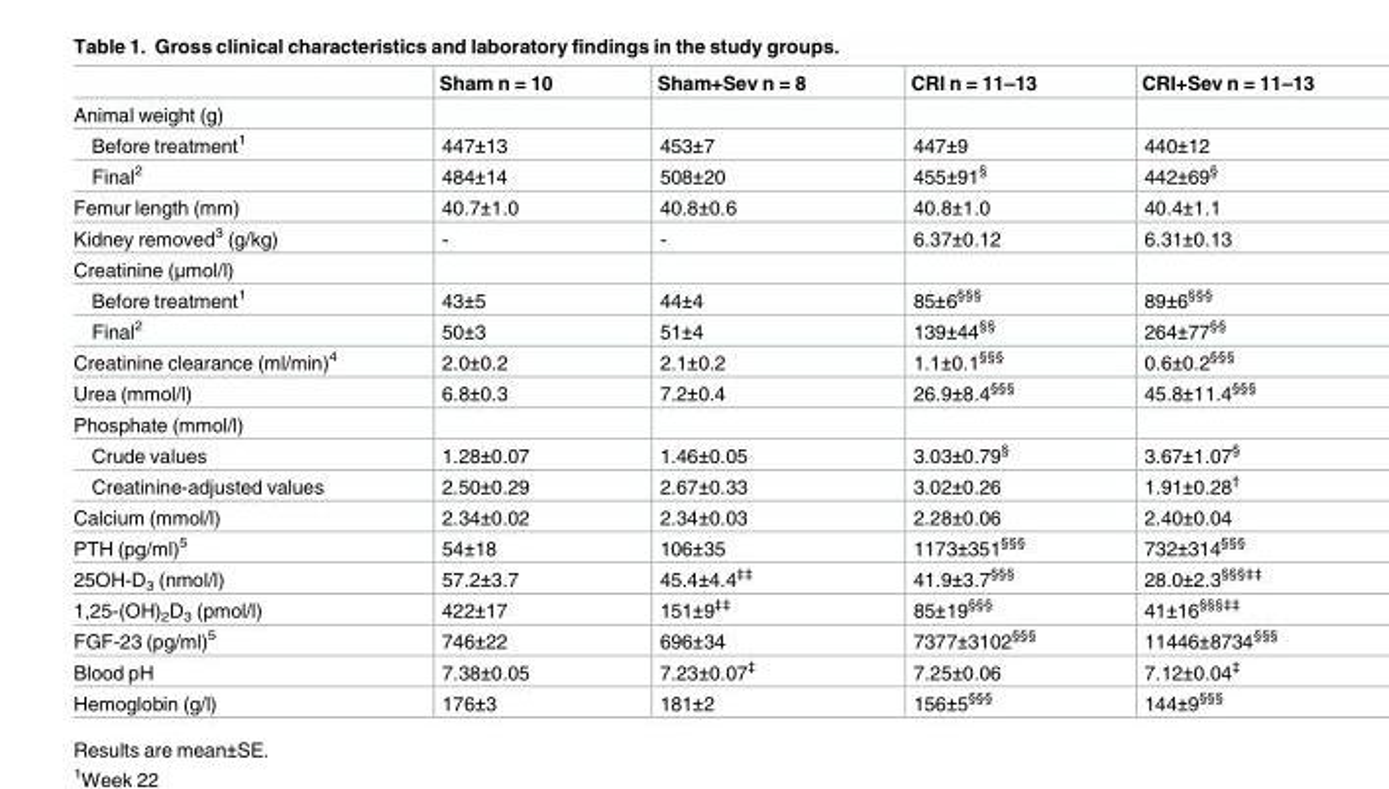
<table><thead><tr><td></td><td>Sham n = 10</td><td>Sham+Sev n = 8</td><td>CRI n = 11–13</td><td>CRI+Sev n = 11–13</td></tr></thead><tbody><tr><td colspan="5">Animal weight (g)</td></tr><tr><td>Before treatment<sup>1</sup></td><td>447±13</td><td>453±7</td><td>447±9</td><td>440±12</td></tr><tr><td>Final<sup>2</sup></td><td>484±14</td><td>508±20</td><td>455±91<sup>§</sup></td><td>442±69<sup>§</sup></td></tr><tr><td>Femur length (mm)</td><td>40.7±1.0</td><td>40.8±0.6</td><td>40.8±1.0</td><td>40.4±1.1</td></tr><tr><td>Kidney removed<sup>3</sup> (g/kg)</td><td>-</td><td>-</td><td>6.37±0.12</td><td>6.31±0.13</td></tr><tr><td colspan="5">Creatinine (μmol/l)</td></tr><tr><td>Before treatment<sup>1</sup></td><td>43±5</td><td>44±4</td><td>85±6<sup>§§§</sup></td><td>89±6<sup>§§§</sup></td></tr><tr><td>Final<sup>2</sup></td><td>50±3</td><td>51±4</td><td>139±44<sup>§§</sup></td><td>264±77<sup>§§</sup></td></tr><tr><td>Creatinine clearance (ml/min)<sup>4</sup></td><td>2.0±0.2</td><td>2.1±0.2</td><td>1.1±0.1<sup>§§§</sup></td><td>0.6±0.2<sup>§§§</sup></td></tr><tr><td>Urea (mmol/l)</td><td>6.8±0.3</td><td>7.2±0.4</td><td>26.9±8.4<sup>§§§</sup></td><td>45.8±11.4<sup>§§§</sup></td></tr><tr><td colspan="5">Phosphate (mmol/l)</td></tr><tr><td>Crude values</td><td>1.28±0.07</td><td>1.46±0.05</td><td>3.03±0.79<sup>§</sup></td><td>3.67±1.07<sup>§</sup></td></tr><tr><td>Creatinine-adjusted values</td><td>2.50±0.29</td><td>2.67±0.33</td><td>3.02±0.26</td><td>1.91±0.28<sup>†</sup></td></tr><tr><td>Calcium (mmol/l)</td><td>2.34±0.02</td><td>2.34±0.03</td><td>2.28±0.06</td><td>2.40±0.04</td></tr><tr><td>PTH (pg/ml)<sup>5</sup></td><td>54±18</td><td>106±35</td><td>1173±351<sup>§§§</sup></td><td>732±314<sup>§§§</sup></td></tr><tr><td>25OH-D<sub>3</sub> (nmol/l)</td><td>57.2±3.7</td><td>45.4±4.4<sup>‡‡</sup></td><td>41.9±3.7<sup>§§§</sup></td><td>28.0±2.3<sup>§§§‡‡</sup></td></tr><tr><td>1,25-(OH)<sub>2</sub>D<sub>3</sub> (pmol/l)</td><td>422±17</td><td>151±9<sup>‡‡</sup></td><td>85±19<sup>§§§</sup></td><td>41±16<sup>§§§‡‡</sup></td></tr><tr><td>FGF-23 (pg/ml)<sup>5</sup></td><td>746±22</td><td>696±34</td><td>7377±3102<sup>§§§</sup></td><td>11446±8734<sup>§§§</sup></td></tr><tr><td>Blood pH</td><td>7.38±0.05</td><td>7.23±0.07<sup>‡</sup></td><td>7.25±0.06</td><td>7.12±0.04<sup>‡</sup></td></tr><tr><td>Hemoglobin (g/l)</td><td>176±3</td><td>181±2</td><td>156±5<sup>§§§</sup></td><td>144±9<sup>§§§</sup></td></tr></tbody></table>